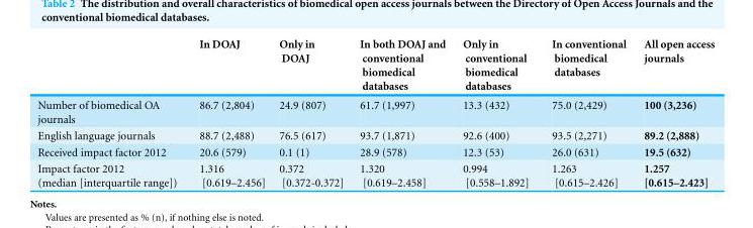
<table><thead><tr><td></td><td>In DOAJ</td><td>Only in DOAJ</td><td>In both DOAJ and conventional biomedical databases</td><td>Only in conventional biomedical databases</td><td>In conventional biomedical databases</td><td>All open access journals</td></tr></thead><tbody><tr><td>Number of biomedical OA journals</td><td>86.7 (2,804)</td><td>24.9 (807)</td><td>61.7 (1,997)</td><td>13.3 (432)</td><td>75.0 (2,429)</td><td>100 (3,236)</td></tr><tr><td>English language journals</td><td>88.7 (2,488)</td><td>76.5 (617)</td><td>93.7 (1,871)</td><td>92.6 (400)</td><td>93.5 (2,271)</td><td>89.2 (2,888)</td></tr><tr><td>Received impact factor 2012</td><td>20.6 (579)</td><td>0.1 (1)</td><td>28.9 (578)</td><td>12.3 (53)</td><td>26.0 (631)</td><td>19.5 (632)</td></tr><tr><td>Impact factor 2012 (median [interquartile range])</td><td>1.316 [0.619–2.456]</td><td>0.372 [0.372-0.372]</td><td>1.320 [0.619–2.458]</td><td>0.994 [0.558–1.892]</td><td>1.263 [0.615–2.426]</td><td>1.257 [0.615–2.423]</td></tr></tbody></table>